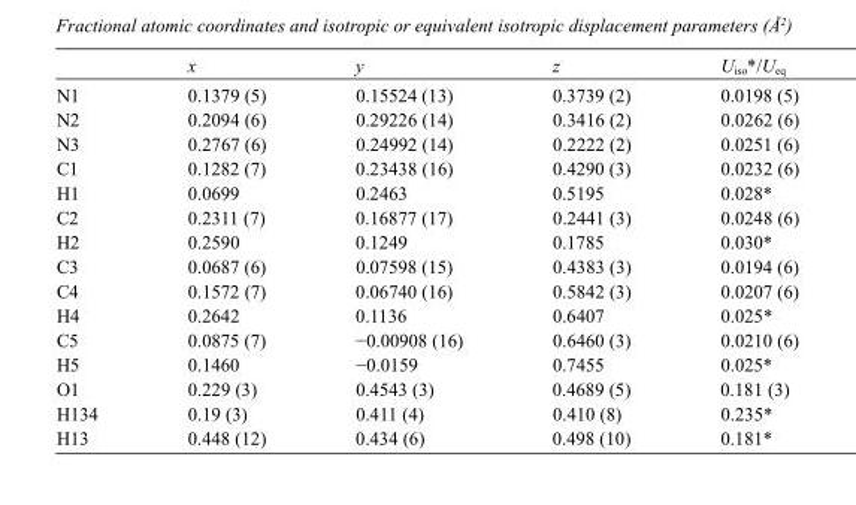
<table><thead><tr><td></td><td>x</td><td>y</td><td>z</td><td>U<sub>iso</sub>*/U<sub>eq</sub></td></tr></thead><tbody><tr><td>N1</td><td>0.1379 (5)</td><td>0.15524 (13)</td><td>0.3739 (2)</td><td>0.0198 (5)</td></tr><tr><td>N2</td><td>0.2094 (6)</td><td>0.29226 (14)</td><td>0.3416 (2)</td><td>0.0262 (6)</td></tr><tr><td>N3</td><td>0.2767 (6)</td><td>0.24992 (14)</td><td>0.2222 (2)</td><td>0.0251 (6)</td></tr><tr><td>C1</td><td>0.1282 (7)</td><td>0.23438 (16)</td><td>0.4290 (3)</td><td>0.0232 (6)</td></tr><tr><td>H1</td><td>0.0699</td><td>0.2463</td><td>0.5195</td><td>0.028*</td></tr><tr><td>C2</td><td>0.2311 (7)</td><td>0.16877 (17)</td><td>0.2441 (3)</td><td>0.0248 (6)</td></tr><tr><td>H2</td><td>0.2590</td><td>0.1249</td><td>0.1785</td><td>0.030*</td></tr><tr><td>C3</td><td>0.0687 (6)</td><td>0.07598 (15)</td><td>0.4383 (3)</td><td>0.0194 (6)</td></tr><tr><td>C4</td><td>0.1572 (7)</td><td>0.06740 (16)</td><td>0.5842 (3)</td><td>0.0207 (6)</td></tr><tr><td>H4</td><td>0.2642</td><td>0.1136</td><td>0.6407</td><td>0.025*</td></tr><tr><td>C5</td><td>0.0875 (7)</td><td>−0.00908 (16)</td><td>0.6460 (3)</td><td>0.0210 (6)</td></tr><tr><td>H5</td><td>0.1460</td><td>−0.0159</td><td>0.7455</td><td>0.025*</td></tr><tr><td>O1</td><td>0.229 (3)</td><td>0.4543 (3)</td><td>0.4689 (5)</td><td>0.181 (3)</td></tr><tr><td>H134</td><td>0.19 (3)</td><td>0.411 (4)</td><td>0.410 (8)</td><td>0.235*</td></tr><tr><td>H13</td><td>0.448 (12)</td><td>0.434 (6)</td><td>0.498 (10)</td><td>0.181*</td></tr></tbody></table>